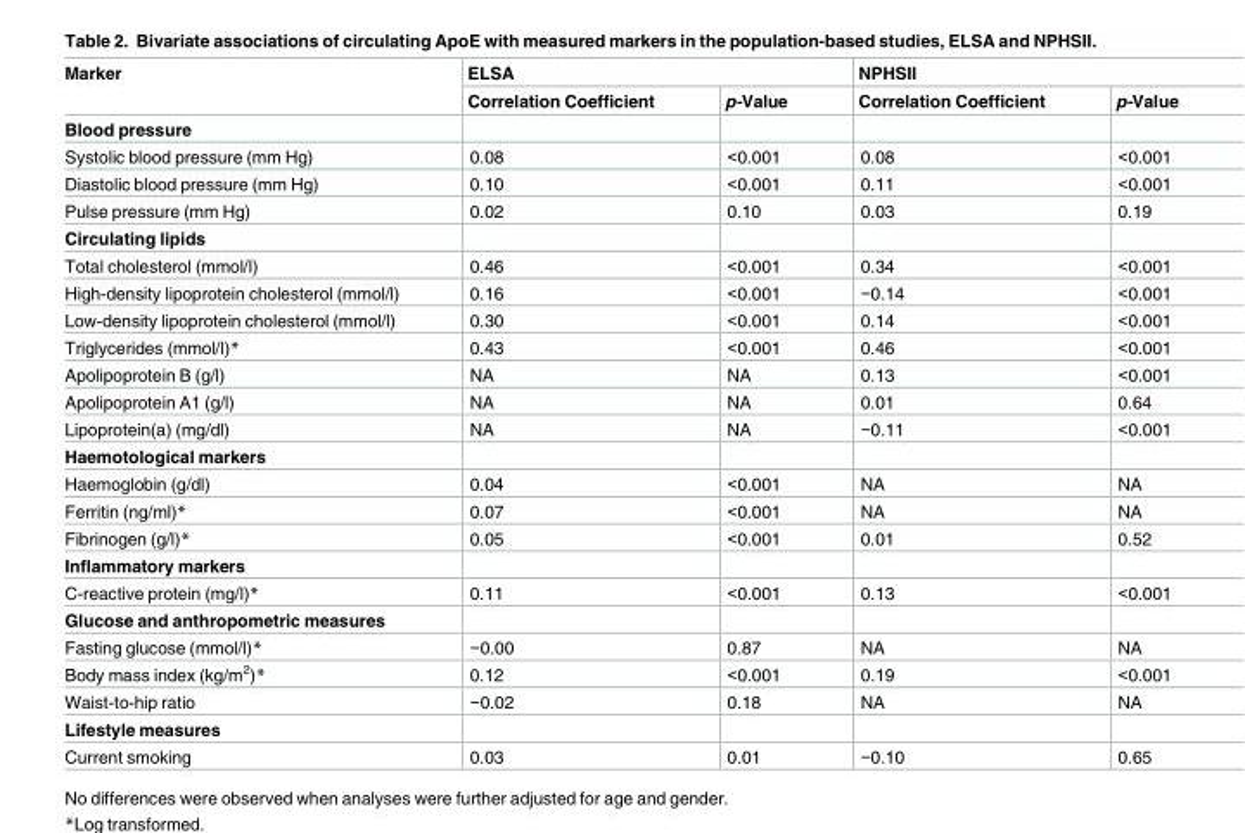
<table><thead><tr><td rowspan="2">Marker</td><td colspan="2">ELSA</td><td colspan="2">NPHSII</td></tr><tr><td>Correlation Coefficient</td><td>p-Value</td><td>Correlation Coefficient</td><td>p-Value</td></tr></thead><tbody><tr><td colspan="5">Blood pressure</td></tr><tr><td>Systolic blood pressure (mm Hg)</td><td>0.08</td><td>&lt;0.001</td><td>0.08</td><td>&lt;0.001</td></tr><tr><td>Diastolic blood pressure (mm Hg)</td><td>0.10</td><td>&lt;0.001</td><td>0.11</td><td>&lt;0.001</td></tr><tr><td>Pulse pressure (mm Hg)</td><td>0.02</td><td>0.10</td><td>0.03</td><td>0.19</td></tr><tr><td colspan="5">Circulating lipids</td></tr><tr><td>Total cholesterol (mmol/l)</td><td>0.46</td><td>&lt;0.001</td><td>0.34</td><td>&lt;0.001</td></tr><tr><td>High-density lipoprotein cholesterol (mmol/l)</td><td>0.16</td><td>&lt;0.001</td><td>−0.14</td><td>&lt;0.001</td></tr><tr><td>Low-density lipoprotein cholesterol (mmol/l)</td><td>0.30</td><td>&lt;0.001</td><td>0.14</td><td>&lt;0.001</td></tr><tr><td>Triglycerides (mmol/l)*</td><td>0.43</td><td>&lt;0.001</td><td>0.46</td><td>&lt;0.001</td></tr><tr><td>Apolipoprotein B (g/l)</td><td>NA</td><td>NA</td><td>0.13</td><td>&lt;0.001</td></tr><tr><td>Apolipoprotein A1 (g/l)</td><td>NA</td><td>NA</td><td>0.01</td><td>0.64</td></tr><tr><td>Lipoprotein(a) (mg/dl)</td><td>NA</td><td>NA</td><td>−0.11</td><td>&lt;0.001</td></tr><tr><td colspan="5">Haemotological markers</td></tr><tr><td>Haemoglobin (g/dl)</td><td>0.04</td><td>&lt;0.001</td><td>NA</td><td>NA</td></tr><tr><td>Ferritin (ng/ml)*</td><td>0.07</td><td>&lt;0.001</td><td>NA</td><td>NA</td></tr><tr><td>Fibrinogen (g/l)*</td><td>0.05</td><td>&lt;0.001</td><td>0.01</td><td>0.52</td></tr><tr><td colspan="5">Inflammatory markers</td></tr><tr><td>C-reactive protein (mg/l)*</td><td>0.11</td><td>&lt;0.001</td><td>0.13</td><td>&lt;0.001</td></tr><tr><td colspan="5">Glucose and anthropometric measures</td></tr><tr><td>Fasting glucose (mmol/l)*</td><td>−0.00</td><td>0.87</td><td>NA</td><td>NA</td></tr><tr><td>Body mass index (kg/m<sup>2</sup>)*</td><td>0.12</td><td>&lt;0.001</td><td>0.19</td><td>&lt;0.001</td></tr><tr><td>Waist-to-hip ratio</td><td>−0.02</td><td>0.18</td><td>NA</td><td>NA</td></tr><tr><td colspan="5">Lifestyle measures</td></tr><tr><td>Current smoking</td><td>0.03</td><td>0.01</td><td>−0.10</td><td>0.65</td></tr></tbody></table>